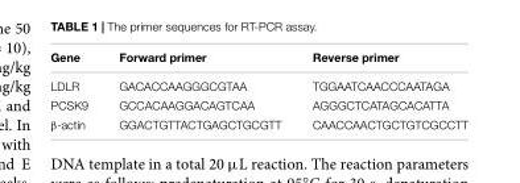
<table><thead><tr><td>Gene</td><td>Forward primer</td><td>Reverse primer</td></tr></thead><tbody><tr><td>LDLR</td><td>GACACCAAGGGCGTAA</td><td>TGGAATCAACCCAATAGA</td></tr><tr><td>PCSK9</td><td>GCCACAAGGACAGTCAA</td><td>AGGGCTCATAGCACATTA</td></tr><tr><td>β-actin</td><td>GGACTGTTACTGAGCTGCGTT</td><td>CAACCAACTGCTGTCGCCTT</td></tr></tbody></table>